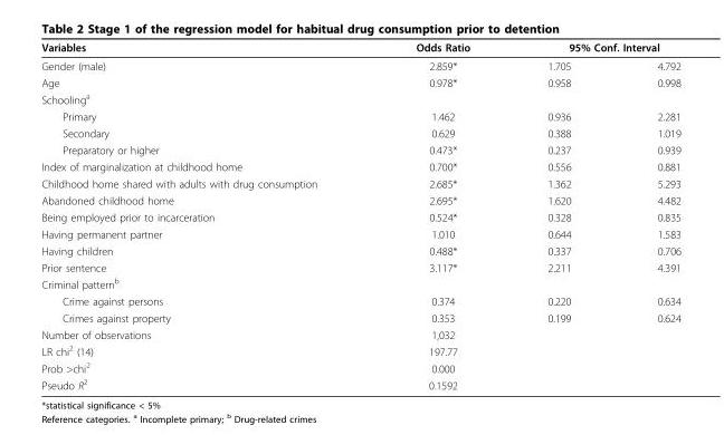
<table><thead><tr><td rowspan="2">Variables Gender (male)</td><td rowspan="2">Odds Ratio 2.859*</td><td colspan="2">95% Conf. Interval</td></tr><tr><td>1.705</td><td>4.792</td></tr></thead><tbody><tr><td>Age</td><td>0.978*</td><td>0.958</td><td>0.998</td></tr><tr><td colspan="4">Schooling<sup>a</sup></td></tr><tr><td>Primary</td><td>1.462</td><td>0.936</td><td>2.281</td></tr><tr><td>Secondary</td><td>0.629</td><td>0.388</td><td>1.019</td></tr><tr><td>Preparatory or higher</td><td>0.473*</td><td>0.237</td><td>0.939</td></tr><tr><td>Index of marginalization at childhood home</td><td>0.700*</td><td>0.556</td><td>0.881</td></tr><tr><td>Childhood home shared with adults with drug consumption</td><td>2.685*</td><td>1.362</td><td>5.293</td></tr><tr><td>Abandoned childhood home</td><td>2.695*</td><td>1.620</td><td>4.482</td></tr><tr><td>Being employed prior to incarceration</td><td>0.524*</td><td>0.328</td><td>0.835</td></tr><tr><td>Having permanent partner</td><td>1.010</td><td>0.644</td><td>1.583</td></tr><tr><td>Having children</td><td>0.488*</td><td>0.337</td><td>0.706</td></tr><tr><td>Prior sentence</td><td>3.117*</td><td>2.211</td><td>4.391</td></tr><tr><td colspan="4">Criminal pattern<sup>b</sup></td></tr><tr><td>Crime against persons</td><td>0.374</td><td>0.220</td><td>0.634</td></tr><tr><td>Crimes against property</td><td>0.353</td><td>0.199</td><td>0.624</td></tr><tr><td>Number of observations</td><td>1,032</td><td></td><td></td></tr><tr><td>LR chi<sup>2</sup> (14)</td><td>197.77</td><td></td><td></td></tr><tr><td>Prob &gt;chi<sup>2</sup></td><td>0.000</td><td></td><td></td></tr><tr><td>Pseudo R<sup>2</sup></td><td>0.1592</td><td></td><td></td></tr></tbody></table>